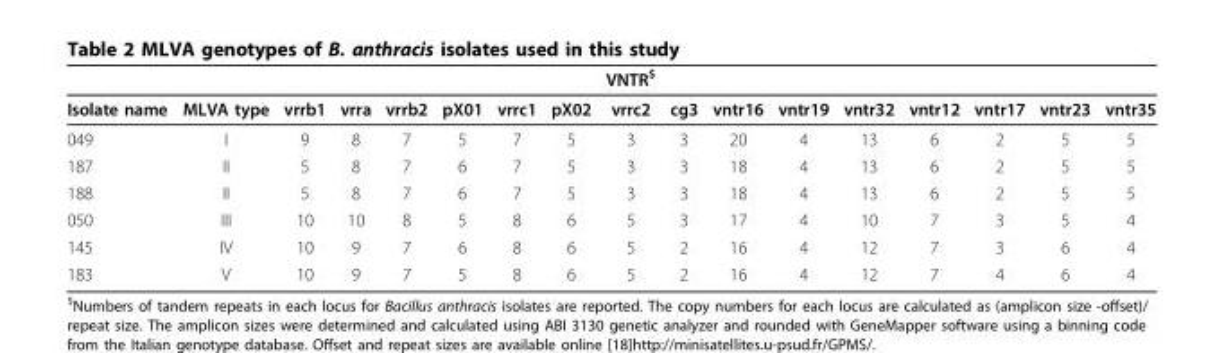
<table><thead><tr><td></td><td></td><td></td><td></td><td></td><td></td><td></td><td></td><td>VNTR<sup>$</sup></td><td></td><td></td><td></td><td></td><td></td><td></td><td></td><td></td></tr></thead><tbody><tr><td>Isolate name</td><td>MLVA type</td><td>vrrb1</td><td>vrra</td><td>vrrb2</td><td>pX01</td><td>vrrc1</td><td>pX02</td><td>vrrc2</td><td>cg3</td><td>vntr16</td><td>vntr19</td><td>vntr32</td><td>vntr12</td><td>vntr17</td><td>vntr23</td><td>vntr35</td></tr><tr><td>049</td><td>I</td><td>9</td><td>8</td><td>7</td><td>5</td><td>7</td><td>5</td><td>3</td><td>3</td><td>20</td><td>4</td><td>13</td><td>6</td><td>2</td><td>5</td><td>5</td></tr><tr><td>187</td><td>II</td><td>5</td><td>8</td><td>7</td><td>6</td><td>7</td><td>5</td><td>3</td><td>3</td><td>18</td><td>4</td><td>13</td><td>6</td><td>2</td><td>5</td><td>5</td></tr><tr><td>188</td><td>II</td><td>5</td><td>8</td><td>7</td><td>6</td><td>7</td><td>5</td><td>3</td><td>3</td><td>18</td><td>4</td><td>13</td><td>6</td><td>2</td><td>5</td><td>5</td></tr><tr><td>050</td><td>III</td><td>10</td><td>10</td><td>8</td><td>5</td><td>8</td><td>6</td><td>5</td><td>3</td><td>17</td><td>4</td><td>10</td><td>7</td><td>3</td><td>5</td><td>4</td></tr><tr><td>145</td><td>IV</td><td>10</td><td>9</td><td>7</td><td>6</td><td>8</td><td>6</td><td>5</td><td>2</td><td>16</td><td>4</td><td>12</td><td>7</td><td>3</td><td>6</td><td>4</td></tr><tr><td>183</td><td>V</td><td>10</td><td>9</td><td>7</td><td>5</td><td>8</td><td>6</td><td>5</td><td>2</td><td>16</td><td>4</td><td>12</td><td>7</td><td>4</td><td>6</td><td>4</td></tr></tbody></table>